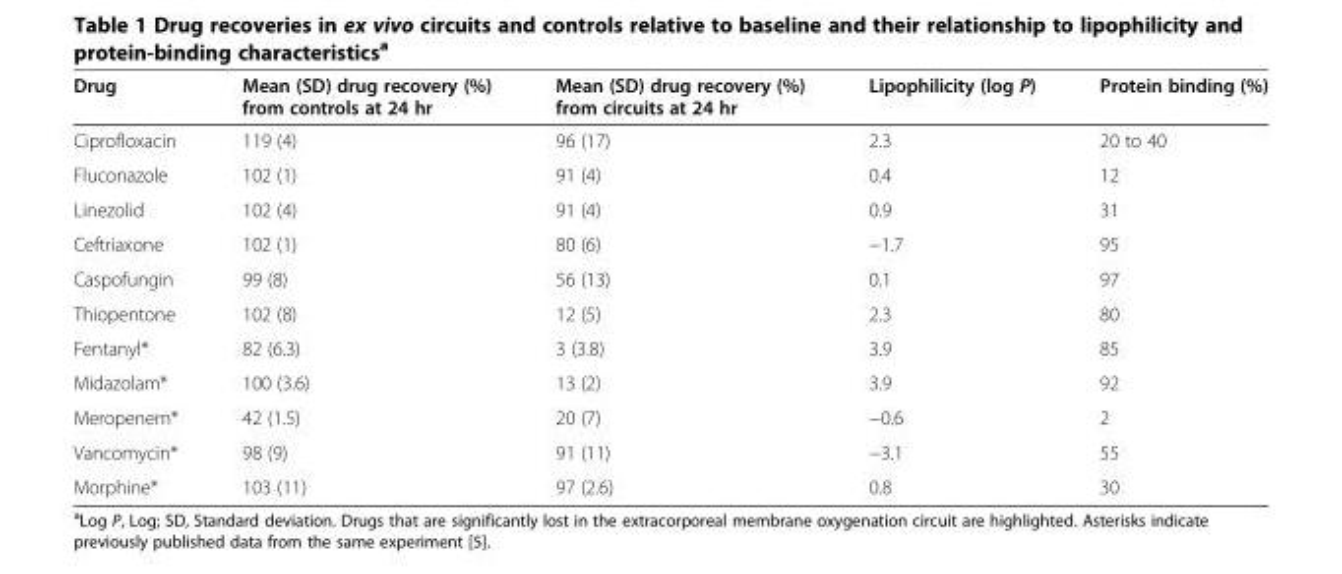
<table><thead><tr><td>Drug</td><td>Mean (SD) drug recovery (%) from controls at 24 hr</td><td>Mean (SD) drug recovery (%) from circuits at 24 hr</td><td>Lipophilicity (log P)</td><td>Protein binding (%)</td></tr></thead><tbody><tr><td>Ciprofloxacin</td><td>119 (4)</td><td>96 (17)</td><td>2.3</td><td>20 to 40</td></tr><tr><td>Fluconazole</td><td>102 (1)</td><td>91 (4)</td><td>0.4</td><td>12</td></tr><tr><td>Linezolid</td><td>102 (4)</td><td>91 (4)</td><td>0.9</td><td>31</td></tr><tr><td>Ceftriaxone</td><td>102 (1)</td><td>80 (6)</td><td>−1.7</td><td>95</td></tr><tr><td>Caspofungin</td><td>99 (8)</td><td>56 (13)</td><td>0.1</td><td>97</td></tr><tr><td>Thiopentone</td><td>102 (8)</td><td>12 (5)</td><td>2.3</td><td>80</td></tr><tr><td>Fentanyl*</td><td>82 (6.3)</td><td>3 (3.8)</td><td>3.9</td><td>85</td></tr><tr><td>Midazolam*</td><td>100 (3.6)</td><td>13 (2)</td><td>3.9</td><td>92</td></tr><tr><td>Meropenem*</td><td>42 (1.5)</td><td>20 (7)</td><td>−0.6</td><td>2</td></tr><tr><td>Vancomycin*</td><td>98 (9)</td><td>91 (11)</td><td>−3.1</td><td>55</td></tr><tr><td>Morphine*</td><td>103 (11)</td><td>97 (2.6)</td><td>0.8</td><td>30</td></tr></tbody></table>